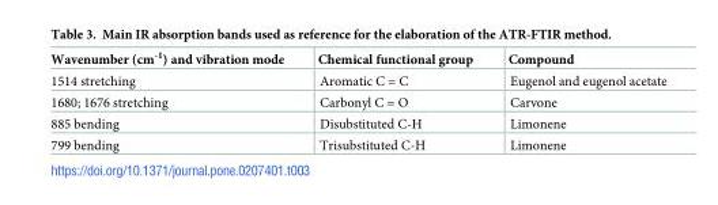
<table><thead><tr><td>Wavenumber (cm<sup>-1</sup>) and vibration mode</td><td>Chemical functional group</td><td>Compound</td></tr></thead><tbody><tr><td>1514 stretching</td><td>Aromatic C = C</td><td>Eugenol and eugenol acetate</td></tr><tr><td>1680; 1676 stretching</td><td>Carbonyl C = O</td><td>Carvone</td></tr><tr><td>885 bending</td><td>Disubstituted C-H</td><td>Limonene</td></tr><tr><td>799 bending</td><td>Trisubstituted C-H</td><td>Limonene</td></tr></tbody></table>